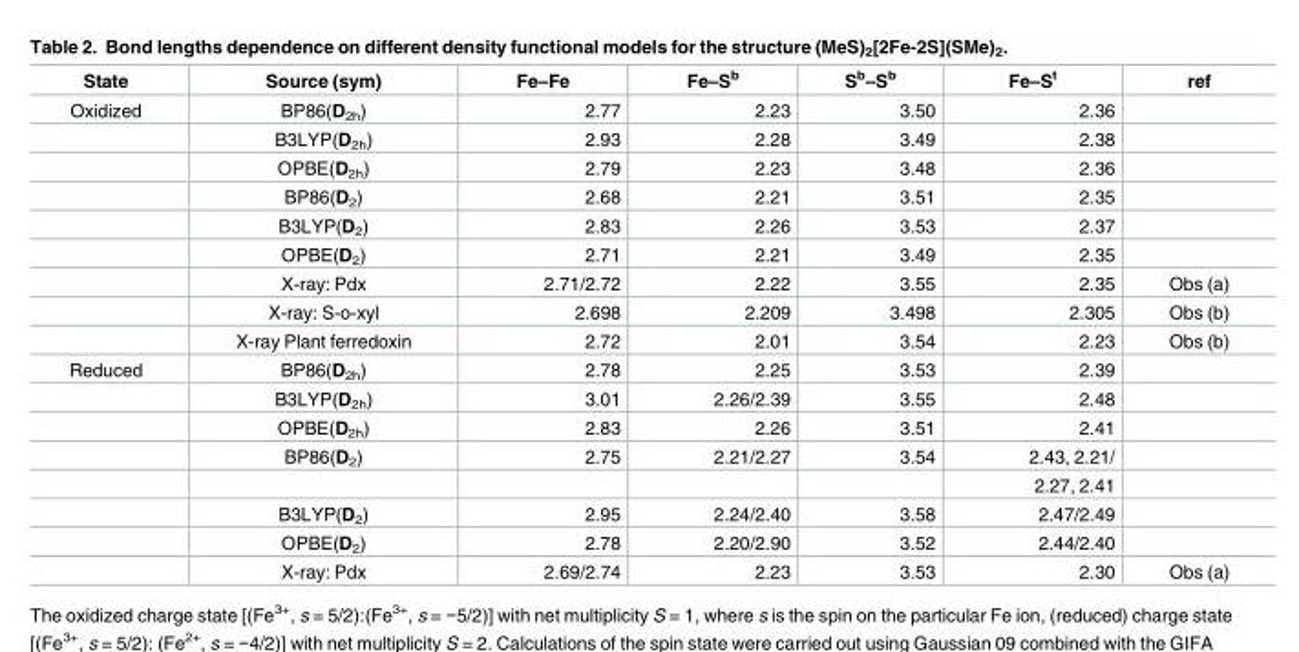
<table><thead><tr><td>State</td><td>Source (sym)</td><td>Fe–Fe</td><td>Fe–S<sup>b</sup></td><td>S<sup>b</sup>–S<sup>b</sup></td><td>Fe–S<sup>t</sup></td><td>ref</td></tr></thead><tbody><tr><td rowspan="9">Oxidized</td><td>BP86(D<sub>2h</sub>)</td><td>2.77</td><td>2.23</td><td>3.50</td><td>2.36</td><td></td></tr><tr><td>B3LYP(D<sub>2h</sub>)</td><td>2.93</td><td>2.28</td><td>3.49</td><td>2.38</td><td></td></tr><tr><td>OPBE(D<sub>2h</sub>)</td><td>2.79</td><td>2.23</td><td>3.48</td><td>2.36</td><td></td></tr><tr><td>BP86(D<sub>2</sub>)</td><td>2.68</td><td>2.21</td><td>3.51</td><td>2.35</td><td></td></tr><tr><td>B3LYP(D<sub>2</sub>)</td><td>2.83</td><td>2.26</td><td>3.53</td><td>2.37</td><td></td></tr><tr><td>OPBE(D<sub>2</sub>)</td><td>2.71</td><td>2.21</td><td>3.49</td><td>2.35</td><td></td></tr><tr><td>X-ray: Pdx</td><td>2.71/2.72</td><td>2.22</td><td>3.55</td><td>2.35</td><td>Obs (a)</td></tr><tr><td>X-ray: S-o-xyl</td><td>2.698</td><td>2.209</td><td>3.498</td><td>2.305</td><td>Obs (b)</td></tr><tr><td>X-ray Plant ferredoxin</td><td>2.72</td><td>2.01</td><td>3.54</td><td>2.23</td><td>Obs (b)</td></tr><tr><td rowspan="8">Reduced</td><td>BP86(D<sub>2h</sub>)</td><td>2.78</td><td>2.25</td><td>3.53</td><td>2.39</td><td></td></tr><tr><td>B3LYP(D<sub>2h</sub>)</td><td>3.01</td><td>2.26/2.39</td><td>3.55</td><td>2.48</td><td></td></tr><tr><td>OPBE(D<sub>2h</sub>)</td><td>2.83</td><td>2.26</td><td>3.51</td><td>2.41</td><td></td></tr><tr><td>BP86(D<sub>2</sub>)</td><td>2.75</td><td>2.21/2.27</td><td>3.54</td><td>2.43, 2.21/</td><td></td></tr><tr><td></td><td></td><td></td><td></td><td>2.27, 2.41</td><td></td></tr><tr><td>B3LYP(D<sub>2</sub>)</td><td>2.95</td><td>2.24/2.40</td><td>3.58</td><td>2.47/2.49</td><td></td></tr><tr><td>OPBE(D<sub>2</sub>)</td><td>2.78</td><td>2.20/2.90</td><td>3.52</td><td>2.44/2.40</td><td></td></tr><tr><td>X-ray: Pdx</td><td>2.69/2.74</td><td>2.23</td><td>3.53</td><td>2.30</td><td>Obs (a)</td></tr></tbody></table>